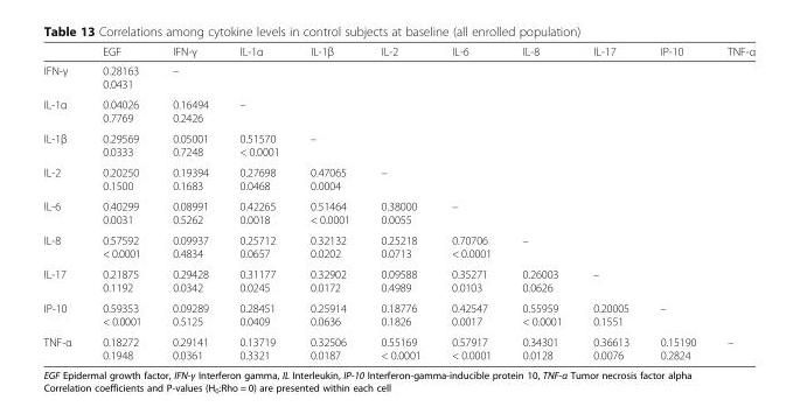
<table><thead><tr><td></td><td>EGF</td><td>IFN-γ</td><td>IL-1α</td><td>IL-1β</td><td>IL-2</td><td>IL-6</td><td>IL-8</td><td>IL-17</td><td>IP-10</td><td>TNF-α</td></tr></thead><tbody><tr><td>IFN-γ</td><td>0.28163 0.0431</td><td>–</td><td></td><td></td><td></td><td></td><td></td><td></td><td></td><td></td></tr><tr><td>IL-1α</td><td>0.04026 0.7769</td><td>0.16494 0.2426</td><td>–</td><td></td><td></td><td></td><td></td><td></td><td></td><td></td></tr><tr><td>IL-1β</td><td>0.29569 0.0333</td><td>0.05001 0.7248</td><td>0.51570 &lt; 0.0001</td><td>–</td><td></td><td></td><td></td><td></td><td></td><td></td></tr><tr><td>IL-2</td><td>0.20250 0.1500</td><td>0.19394 0.1683</td><td>0.27698 0.0468</td><td>0.47065 0.0004</td><td>–</td><td></td><td></td><td></td><td></td><td></td></tr><tr><td>IL-6</td><td>0.40299 0.0031</td><td>0.08991 0.5262</td><td>0.42265 0.0018</td><td>0.51464 &lt; 0.0001</td><td>0.38000 0.0055</td><td>–</td><td></td><td></td><td></td><td></td></tr><tr><td>IL-8</td><td>0.57592 &lt; 0.0001</td><td>0.09937 0.4834</td><td>0.25712 0.0657</td><td>0.32132 0.0202</td><td>0.25218 0.0713</td><td>0.70706 &lt; 0.0001</td><td>–</td><td></td><td></td><td></td></tr><tr><td>IL-17</td><td>0.21875 0.1192</td><td>0.29428 0.0342</td><td>0.31177 0.0245</td><td>0.32902 0.0172</td><td>0.09588 0.4989</td><td>0.35271 0.0103</td><td>0.26003 0.0626</td><td>–</td><td></td><td></td></tr><tr><td>IP-10</td><td>0.59353 &lt; 0.0001</td><td>0.09289 0.5125</td><td>0.28451 0.0409</td><td>0.25914 0.0636</td><td>0.18776 0.1826</td><td>0.42547 0.0017</td><td>0.55959 &lt; 0.0001</td><td>0.20005 0.1551</td><td>–</td><td></td></tr><tr><td>TNF-α</td><td>0.18272 0.1948</td><td>0.29141 0.0361</td><td>0.13719 0.3321</td><td>0.32506 0.0187</td><td>0.55169 &lt; 0.0001</td><td>0.57917 &lt; 0.0001</td><td>0.34301 0.0128</td><td>0.36613 0.0076</td><td>0.15190 0.2824</td><td>–</td></tr></tbody></table>